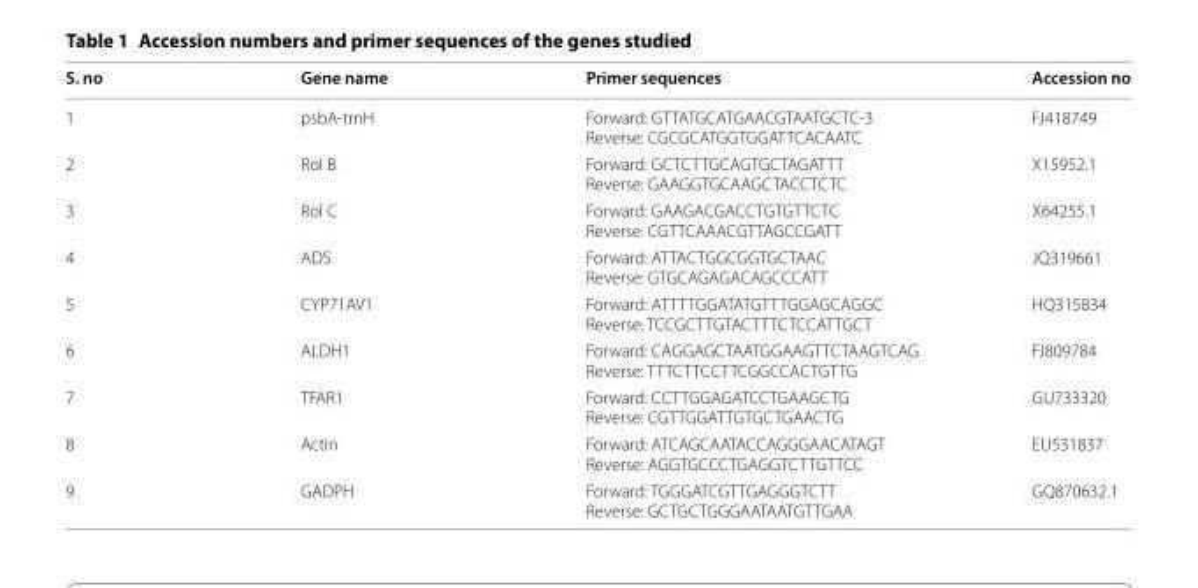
<table><thead><tr><td>S. no</td><td>Gene name</td><td>Primer sequences</td><td>Accession no</td></tr></thead><tbody><tr><td>1</td><td>psbA-trnH</td><td>Forward: GTTATGCATGAACGTAATGCTC-3 Reverse: CGCGCATGGTGGATTCACAATC</td><td>FJ418749</td></tr><tr><td>2</td><td>Rol B</td><td>Forward: GCTCTTGCAGTGCTAGATTT Reverse: GAAGGTGCAAGCTACCTCTC</td><td>X15952.1</td></tr><tr><td>3</td><td>Rol C</td><td>Forward: GAAGACGACCTGTGTTCTC Reverse: CGTTCAAACGTTAGCCGATT</td><td>X64255.1</td></tr><tr><td>4</td><td>ADS</td><td>Forward: ATTACTGGCGGTGCTAAC Reverse: GTGCAGAGACAGCCCATT</td><td>JQ319661</td></tr><tr><td>5</td><td>CYP71AV1</td><td>Forward: ATTTTGGATATGTTTGGAGCAGGC Reverse: TCCGCTTGTACTTTCTCCATTGCT</td><td>HQ315834</td></tr><tr><td>6</td><td>ALDH1</td><td>Forward: CAGGAGCTAATGGAAGTTCTAAGTCAG Reverse: TTTCTTCCTTCGGCCACTGTTG</td><td>FJ809784</td></tr><tr><td>7</td><td>TFAR1</td><td>Forward: CCTTGGAGATCCTGAAGCTG Reverse: CGTTGGATTGTGCTGAACTG</td><td>GU733320</td></tr><tr><td>8</td><td>Actin</td><td>Forward: ATCAGCAATACCAGGGAACATAGT Reverse: AGGTGCCCTGAGGTCTTGTTCC</td><td>EU531837</td></tr><tr><td>9</td><td>GADPH</td><td>Forward: TGGGATCGTTGAGGGTCTT Reverse: GCTGCTGGGAATAATGTTGAA</td><td>GQ870632.1</td></tr></tbody></table>